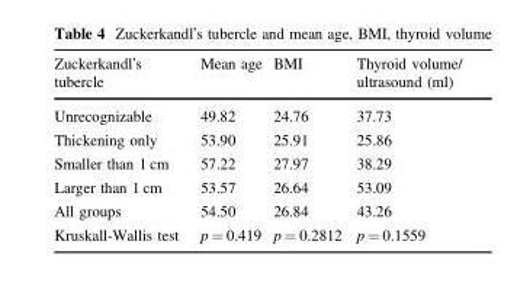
<table><thead><tr><td>Zuckerkandl’s tubercle</td><td>Mean age</td><td>BMI</td><td>Thyroid volume/ ultrasound (ml)</td></tr></thead><tbody><tr><td>Unrecognizable</td><td>49.82</td><td>24.76</td><td>37.73</td></tr><tr><td>Thickening only</td><td>53.90</td><td>25.91</td><td>25.86</td></tr><tr><td>Smaller than 1 cm</td><td>57.22</td><td>27.97</td><td>38.29</td></tr><tr><td>Larger than 1 cm</td><td>53.57</td><td>26.64</td><td>53.09</td></tr><tr><td>All groups</td><td>54.50</td><td>26.84</td><td>43.26</td></tr><tr><td>Kruskall-Wallis test</td><td>p = 0.419</td><td>p = 0.2812</td><td>p = 0.1559</td></tr></tbody></table>